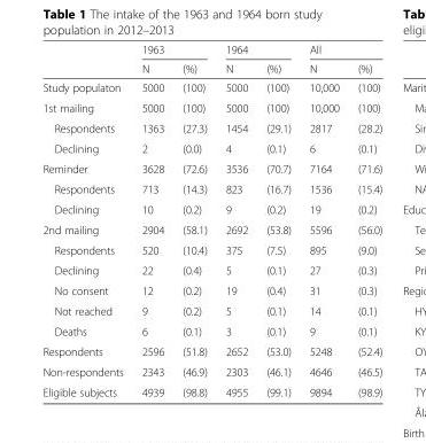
<table><thead><tr><td rowspan="2"></td><td colspan="2">1963</td><td colspan="2">1964</td><td colspan="2">All</td></tr><tr><td>N</td><td>(%)</td><td>N</td><td>(%)</td><td>N</td><td>(%)</td></tr></thead><tbody><tr><td>Study populaton</td><td>5000</td><td>(100)</td><td>5000</td><td>(100)</td><td>10,000</td><td>(100)</td></tr><tr><td>1st mailing</td><td>5000</td><td>(100)</td><td>5000</td><td>(100)</td><td>10,000</td><td>(100)</td></tr><tr><td>Respondents</td><td>1363</td><td>(27.3)</td><td>1454</td><td>(29.1)</td><td>2817</td><td>(28.2)</td></tr><tr><td>Declining</td><td>2</td><td>(0.0)</td><td>4</td><td>(0.1)</td><td>6</td><td>(0.1)</td></tr><tr><td>Reminder</td><td>3628</td><td>(72.6)</td><td>3536</td><td>(70.7)</td><td>7164</td><td>(71.6)</td></tr><tr><td>Respondents</td><td>713</td><td>(14.3)</td><td>823</td><td>(16.7)</td><td>1536</td><td>(15.4)</td></tr><tr><td>Declining</td><td>10</td><td>(0.2)</td><td>9</td><td>(0.2)</td><td>19</td><td>(0.2)</td></tr><tr><td>2nd mailing</td><td>2904</td><td>(58.1)</td><td>2692</td><td>(53.8)</td><td>5596</td><td>(56.0)</td></tr><tr><td>Respondents</td><td>520</td><td>(10.4)</td><td>375</td><td>(7.5)</td><td>895</td><td>(9.0)</td></tr><tr><td>Declining</td><td>22</td><td>(0.4)</td><td>5</td><td>(0.1)</td><td>27</td><td>(0.3)</td></tr><tr><td>No consent</td><td>12</td><td>(0.2)</td><td>19</td><td>(0.4)</td><td>31</td><td>(0.3)</td></tr><tr><td>Not reached</td><td>9</td><td>(0.2)</td><td>5</td><td>(0.1)</td><td>14</td><td>(0.1)</td></tr><tr><td>Deaths</td><td>6</td><td>(0.1)</td><td>3</td><td>(0.1)</td><td>9</td><td>(0.1)</td></tr><tr><td>Respondents</td><td>2596</td><td>(51.8)</td><td>2652</td><td>(53.0)</td><td>5248</td><td>(52.4)</td></tr><tr><td>Non-respondents</td><td>2343</td><td>(46.9)</td><td>2303</td><td>(46.1)</td><td>4646</td><td>(46.5)</td></tr><tr><td>Eligible subjects</td><td>4939</td><td>(98.8)</td><td>4955</td><td>(99.1)</td><td>9894</td><td>(98.9)</td></tr></tbody></table>